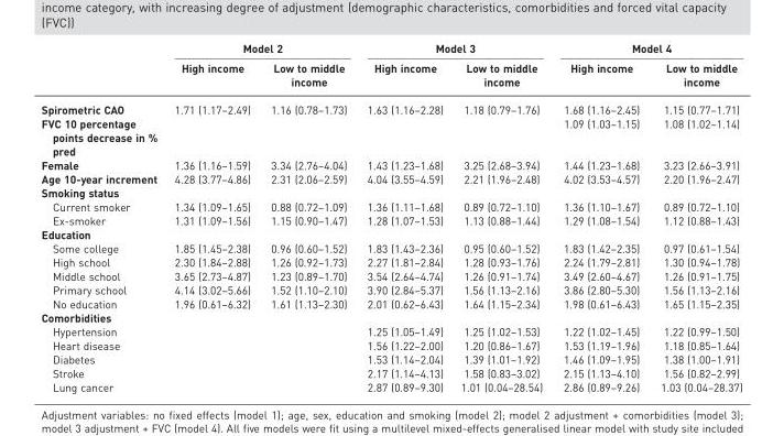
<table><thead><tr><td rowspan="2"></td><td colspan="2">Model 2</td><td colspan="2">Model 3</td><td colspan="2">Model 4</td></tr><tr><td>High income</td><td>Low to middle income</td><td>High income</td><td>Low to middle income</td><td>High income</td><td>Low to middle income</td></tr></thead><tbody><tr><td>Spirometric CAO</td><td>1.71 (1.17–2.49)</td><td>1.16 (0.78–1.73)</td><td>1.63 (1.16–2.28)</td><td>1.18 (0.79–1.76)</td><td>1.68 (1.16–2.45)</td><td>1.15 (0.77–1.71)</td></tr><tr><td>FVC 10 percentage points decrease in % pred</td><td></td><td></td><td></td><td></td><td>1.09 (1.03–1.15)</td><td>1.08 (1.02–1.14)</td></tr><tr><td>Female</td><td>1.36 (1.16–1.59)</td><td>3.34 (2.76–4.04)</td><td>1.43 (1.23–1.68)</td><td>3.25 (2.68–3.94)</td><td>1.44 (1.23–1.68)</td><td>3.23 (2.66–3.91)</td></tr><tr><td>Age 10-year increment</td><td>4.28 (3.77–4.86)</td><td>2.31 (2.06–2.59)</td><td>4.04 (3.55–4.59)</td><td>2.21 (1.96–2.48)</td><td>4.02 (3.53–4.57)</td><td>2.20 (1.96–2.47)</td></tr><tr><td colspan="7">Smoking status</td></tr><tr><td>Current smoker</td><td>1.34 (1.09–1.65)</td><td>0.88 (0.72–1.09)</td><td>1.36 (1.11–1.68)</td><td>0.89 (0.72–1.10)</td><td>1.36 (1.10–1.67)</td><td>0.89 (0.72–1.10)</td></tr><tr><td>Ex-smoker</td><td>1.31 (1.09–1.56)</td><td>1.15 (0.90–1.47)</td><td>1.28 (1.07–1.53)</td><td>1.13 (0.88–1.44)</td><td>1.29 (1.08–1.54)</td><td>1.12 (0.88–1.43)</td></tr><tr><td colspan="7">Education</td></tr><tr><td>Some college</td><td>1.85 (1.45–2.38)</td><td>0.96 (0.60–1.52)</td><td>1.83 (1.43–2.36)</td><td>0.95 (0.60–1.52)</td><td>1.83 (1.42–2.35)</td><td>0.97 (0.61–1.54)</td></tr><tr><td>High school</td><td>2.30 (1.84–2.88)</td><td>1.26 (0.92–1.73)</td><td>2.27 (1.81–2.84)</td><td>1.28 (0.93–1.76)</td><td>2.24 (1.79–2.81)</td><td>1.30 (0.94–1.78)</td></tr><tr><td>Middle school</td><td>3.65 (2.73–4.87)</td><td>1.23 (0.89–1.70)</td><td>3.54 (2.64–4.74)</td><td>1.26 (0.91–1.74)</td><td>3.49 (2.60–4.67)</td><td>1.26 (0.91–1.75)</td></tr><tr><td>Primary school</td><td>4.14 (3.02–5.66)</td><td>1.52 (1.10–2.10)</td><td>3.90 (2.84–5.37)</td><td>1.56 (1.13–2.16)</td><td>3.86 (2.80–5.30)</td><td>1.56 (1.13–2.16)</td></tr><tr><td>No education</td><td>1.96 (0.61–6.32)</td><td>1.61 (1.13–2.30)</td><td>2.01 (0.62–6.43)</td><td>1.64 (1.15–2.34)</td><td>1.98 (0.61–6.43)</td><td>1.65 (1.15–2.35)</td></tr><tr><td colspan="7">Comorbidities</td></tr><tr><td>Hypertension</td><td></td><td></td><td>1.25 (1.05–1.49)</td><td>1.25 (1.02–1.53)</td><td>1.22 (1.02–1.45)</td><td>1.22 (0.99–1.50)</td></tr><tr><td>Heart disease</td><td></td><td></td><td>1.56 (1.22–2.00)</td><td>1.20 (0.86–1.67)</td><td>1.53 (1.19–1.96)</td><td>1.18 (0.85–1.64)</td></tr><tr><td>Diabetes</td><td></td><td></td><td>1.53 (1.14–2.04)</td><td>1.39 (1.01–1.92)</td><td>1.46 (1.09–1.95)</td><td>1.38 (1.00–1.91)</td></tr><tr><td>Stroke</td><td></td><td></td><td>2.17 (1.14–4.13)</td><td>1.58 (0.83–3.02)</td><td>2.15 (1.13–4.10)</td><td>1.56 (0.82–2.99)</td></tr><tr><td>Lung cancer</td><td></td><td></td><td>2.87 (0.89–9.30)</td><td>1.01 (0.04–28.54)</td><td>2.86 (0.89–9.26)</td><td>1.03 (0.04–28.37)</td></tr></tbody></table>